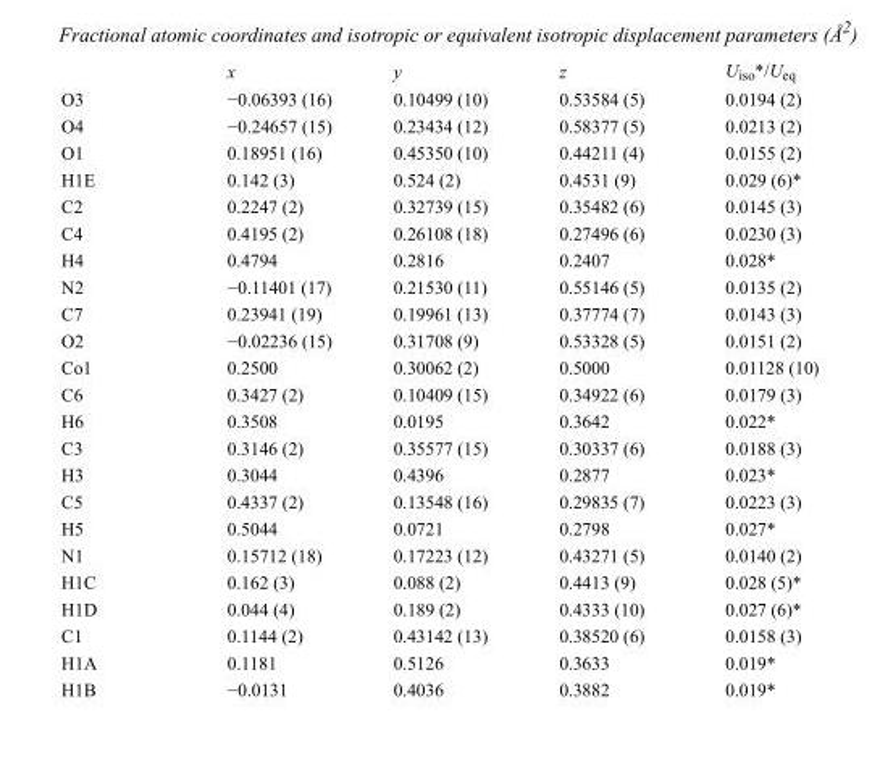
<table><thead><tr><td></td><td>x</td><td>y</td><td>z</td><td>U<sub>iso</sub>*/U<sub>eq</sub></td></tr></thead><tbody><tr><td>O3</td><td>−0.06393 (16)</td><td>0.10499 (10)</td><td>0.53584 (5)</td><td>0.0194 (2)</td></tr><tr><td>O4</td><td>−0.24657 (15)</td><td>0.23434 (12)</td><td>0.58377 (5)</td><td>0.0213 (2)</td></tr><tr><td>O1</td><td>0.18951 (16)</td><td>0.45350 (10)</td><td>0.44211 (4)</td><td>0.0155 (2)</td></tr><tr><td>H1E</td><td>0.142 (3)</td><td>0.524 (2)</td><td>0.4531 (9)</td><td>0.029 (6)*</td></tr><tr><td>C2</td><td>0.2247 (2)</td><td>0.32739 (15)</td><td>0.35482 (6)</td><td>0.0145 (3)</td></tr><tr><td>C4</td><td>0.4195 (2)</td><td>0.26108 (18)</td><td>0.27496 (6)</td><td>0.0230 (3)</td></tr><tr><td>H4</td><td>0.4794</td><td>0.2816</td><td>0.2407</td><td>0.028*</td></tr><tr><td>N2</td><td>−0.11401 (17)</td><td>0.21530 (11)</td><td>0.55146 (5)</td><td>0.0135 (2)</td></tr><tr><td>C7</td><td>0.23941 (19)</td><td>0.19961 (13)</td><td>0.37774 (7)</td><td>0.0143 (3)</td></tr><tr><td>O2</td><td>−0.02236 (15)</td><td>0.31708 (9)</td><td>0.53328 (5)</td><td>0.0151 (2)</td></tr><tr><td>Co1</td><td>0.2500</td><td>0.30062 (2)</td><td>0.5000</td><td>0.01128 (10)</td></tr><tr><td>C6</td><td>0.3427 (2)</td><td>0.10409 (15)</td><td>0.34922 (6)</td><td>0.0179 (3)</td></tr><tr><td>H6</td><td>0.3508</td><td>0.0195</td><td>0.3642</td><td>0.022*</td></tr><tr><td>C3</td><td>0.3146 (2)</td><td>0.35577 (15)</td><td>0.30337 (6)</td><td>0.0188 (3)</td></tr><tr><td>H3</td><td>0.3044</td><td>0.4396</td><td>0.2877</td><td>0.023*</td></tr><tr><td>C5</td><td>0.4337 (2)</td><td>0.13548 (16)</td><td>0.29835 (7)</td><td>0.0223 (3)</td></tr><tr><td>H5</td><td>0.5044</td><td>0.0721</td><td>0.2798</td><td>0.027*</td></tr><tr><td>N1</td><td>0.15712 (18)</td><td>0.17223 (12)</td><td>0.43271 (5)</td><td>0.0140 (2)</td></tr><tr><td>H1C</td><td>0.162 (3)</td><td>0.088 (2)</td><td>0.4413 (9)</td><td>0.028 (5)*</td></tr><tr><td>H1D</td><td>0.044 (4)</td><td>0.189 (2)</td><td>0.4333 (10)</td><td>0.027 (6)*</td></tr><tr><td>C1</td><td>0.1144 (2)</td><td>0.43142 (13)</td><td>0.38520 (6)</td><td>0.0158 (3)</td></tr><tr><td>H1A</td><td>0.1181</td><td>0.5126</td><td>0.3633</td><td>0.019*</td></tr><tr><td>H1B</td><td>−0.0131</td><td>0.4036</td><td>0.3882</td><td>0.019*</td></tr></tbody></table>